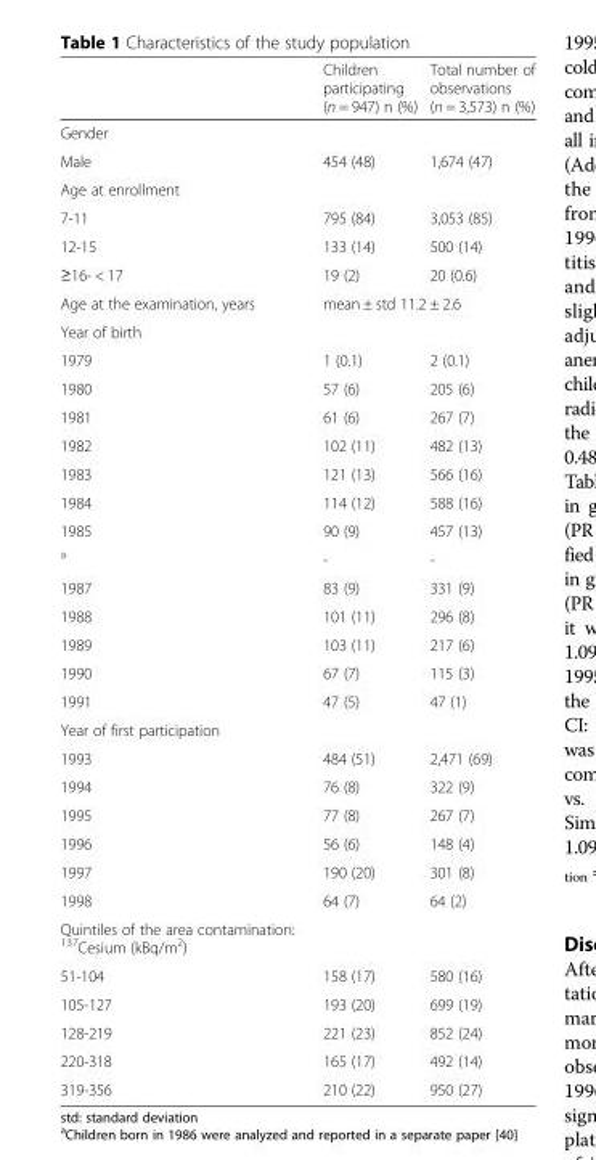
<table><thead><tr><td></td><td>Children participating (n = 947) n (%)</td><td>Total number of observations (n = 3,573) n (%)</td></tr></thead><tbody><tr><td colspan="3">Gender</td></tr><tr><td>Male</td><td>454 (48)</td><td>1,674 (47)</td></tr><tr><td colspan="3">Age at enrollment</td></tr><tr><td>7-11</td><td>795 (84)</td><td>3,053 (85)</td></tr><tr><td>12-15</td><td>133 (14)</td><td>500 (14)</td></tr><tr><td>≥16- &lt; 17</td><td>19 (2)</td><td>20 (0.6)</td></tr><tr><td>Age at the examination, years</td><td colspan="2">mean ± std 11.2 ± 2.6</td></tr><tr><td colspan="3">Year of birth</td></tr><tr><td>1979</td><td>1 (0.1)</td><td>2 (0.1)</td></tr><tr><td>1980</td><td>57 (6)</td><td>205 (6)</td></tr><tr><td>1981</td><td>61 (6)</td><td>267 (7)</td></tr><tr><td>1982</td><td>102 (11)</td><td>482 (13)</td></tr><tr><td>1983</td><td>121 (13)</td><td>566 (16)</td></tr><tr><td>1984</td><td>114 (12)</td><td>588 (16)</td></tr><tr><td>1985</td><td>90 (9)</td><td>457 (13)</td></tr><tr><td><sup>a</sup></td><td>-</td><td>-</td></tr><tr><td>1987</td><td>83 (9)</td><td>331 (9)</td></tr><tr><td>1988</td><td>101 (11)</td><td>296 (8)</td></tr><tr><td>1989</td><td>103 (11)</td><td>217 (6)</td></tr><tr><td>1990</td><td>67 (7)</td><td>115 (3)</td></tr><tr><td>1991</td><td>47 (5)</td><td>47 (1)</td></tr><tr><td colspan="3">Year of first participation</td></tr><tr><td>1993</td><td>484 (51)</td><td>2,471 (69)</td></tr><tr><td>1994</td><td>76 (8)</td><td>322 (9)</td></tr><tr><td>1995</td><td>77 (8)</td><td>267 (7)</td></tr><tr><td>1996</td><td>56 (6)</td><td>148 (4)</td></tr><tr><td>1997</td><td>190 (20)</td><td>301 (8)</td></tr><tr><td>1998</td><td>64 (7)</td><td>64 (2)</td></tr><tr><td colspan="3">Quintiles of the area contamination: <sup>137</sup>Cesium (kBq/m<sup>2</sup>)</td></tr><tr><td>51-104</td><td>158 (17)</td><td>580 (16)</td></tr><tr><td>105-127</td><td>193 (20)</td><td>699 (19)</td></tr><tr><td>128-219</td><td>221 (23)</td><td>852 (24)</td></tr><tr><td>220-318</td><td>165 (17)</td><td>492 (14)</td></tr><tr><td>319-356</td><td>210 (22)</td><td>950 (27)</td></tr></tbody></table>